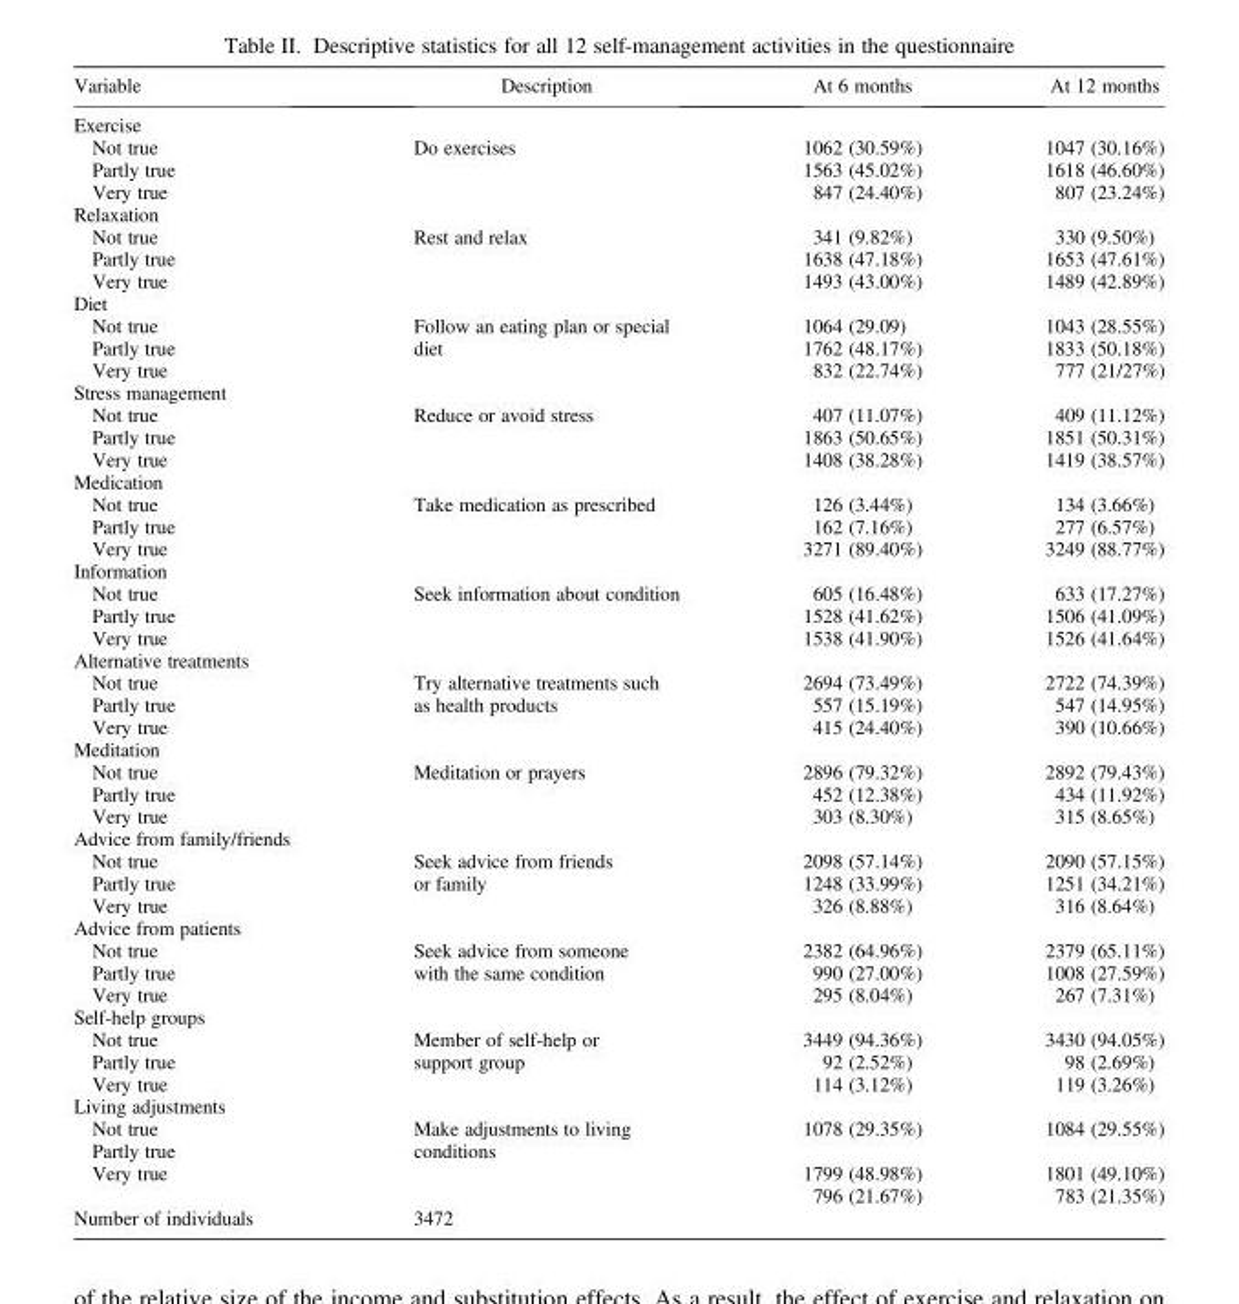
<table><thead><tr><td>Variable</td><td>Description</td><td>At 6 months</td><td>At 12 months</td></tr></thead><tbody><tr><td colspan="4">Exercise</td></tr><tr><td>Not true</td><td rowspan="3">Do exercises</td><td>1062 (30.59%)</td><td>1047 (30.16%)</td></tr><tr><td>Partly true</td><td>1563 (45.02%)</td><td>1618 (46.60%)</td></tr><tr><td>Very true</td><td>847 (24.40%)</td><td>807 (23.24%)</td></tr><tr><td colspan="4">Relaxation</td></tr><tr><td>Not true</td><td rowspan="3">Rest and relax</td><td>341 (9.82%)</td><td>330 (9.50%)</td></tr><tr><td>Partly true</td><td>1638 (47.18%)</td><td>1653 (47.61%)</td></tr><tr><td>Very true</td><td>1493 (43.00%)</td><td>1489 (42.89%)</td></tr><tr><td colspan="4">Diet</td></tr><tr><td>Not true</td><td rowspan="3">Follow an eating plan or special diet</td><td>1064 (29.09)</td><td>1043 (28.55%)</td></tr><tr><td>Partly true</td><td>1762 (48.17%)</td><td>1833 (50.18%)</td></tr><tr><td>Very true</td><td>832 (22.74%)</td><td>777 (21/27%)</td></tr><tr><td colspan="4">Stress management</td></tr><tr><td>Not true</td><td rowspan="3">Reduce or avoid stress</td><td>407 (11.07%)</td><td>409 (11.12%)</td></tr><tr><td>Partly true</td><td>1863 (50.65%)</td><td>1851 (50.31%)</td></tr><tr><td>Very true</td><td>1408 (38.28%)</td><td>1419 (38.57%)</td></tr><tr><td colspan="4">Medication</td></tr><tr><td>Not true</td><td rowspan="3">Take medication as prescribed</td><td>126 (3.44%)</td><td>134 (3.66%)</td></tr><tr><td>Partly true</td><td>162 (7.16%)</td><td>277 (6.57%)</td></tr><tr><td>Very true</td><td>3271 (89.40%)</td><td>3249 (88.77%)</td></tr><tr><td colspan="4">Information</td></tr><tr><td>Not true</td><td rowspan="3">Seek information about condition</td><td>605 (16.48%)</td><td>633 (17.27%)</td></tr><tr><td>Partly true</td><td>1528 (41.62%)</td><td>1506 (41.09%)</td></tr><tr><td>Very true</td><td>1538 (41.90%)</td><td>1526 (41.64%)</td></tr><tr><td colspan="4">Alternative treatments</td></tr><tr><td>Not true</td><td rowspan="3">Try alternative treatments such as health products</td><td>2694 (73.49%)</td><td>2722 (74.39%)</td></tr><tr><td>Partly true</td><td>557 (15.19%)</td><td>547 (14.95%)</td></tr><tr><td>Very true</td><td>415 (24.40%)</td><td>390 (10.66%)</td></tr><tr><td colspan="4">Meditation</td></tr><tr><td>Not true</td><td rowspan="3">Meditation or prayers</td><td>2896 (79.32%)</td><td>2892 (79.43%)</td></tr><tr><td>Partly true</td><td>452 (12.38%)</td><td>434 (11.92%)</td></tr><tr><td>Very true</td><td>303 (8.30%)</td><td>315 (8.65%)</td></tr><tr><td colspan="4">Advice from family/friends</td></tr><tr><td>Not true</td><td rowspan="3">Seek advice from friends or family</td><td>2098 (57.14%)</td><td>2090 (57.15%)</td></tr><tr><td>Partly true</td><td>1248 (33.99%)</td><td>1251 (34.21%)</td></tr><tr><td>Very true</td><td>326 (8.88%)</td><td>316 (8.64%)</td></tr><tr><td colspan="4">Advice from patients</td></tr><tr><td>Not true</td><td rowspan="3">Seek advice from someone with the same condition</td><td>2382 (64.96%)</td><td>2379 (65.11%)</td></tr><tr><td>Partly true</td><td>990 (27.00%)</td><td>1008 (27.59%)</td></tr><tr><td>Very true</td><td>295 (8.04%)</td><td>267 (7.31%)</td></tr><tr><td colspan="4">Self-help groups</td></tr><tr><td>Not true</td><td rowspan="3">Member of self-help or support group</td><td>3449 (94.36%)</td><td>3430 (94.05%)</td></tr><tr><td>Partly true</td><td>92 (2.52%)</td><td>98 (2.69%)</td></tr><tr><td>Very true</td><td>114 (3.12%)</td><td>119 (3.26%)</td></tr><tr><td colspan="4">Living adjustments</td></tr><tr><td>Not true</td><td rowspan="4">Make adjustments to living conditions</td><td rowspan="2">1078 (29.35%)</td><td rowspan="2">1084 (29.55%)</td></tr><tr><td>Partly true</td></tr><tr><td rowspan="2">Very true</td><td>1799 (48.98%)</td><td>1801 (49.10%)</td></tr><tr><td>796 (21.67%)</td><td>783 (21.35%)</td></tr><tr><td>Number of individuals</td><td>3472</td><td></td><td></td></tr></tbody></table>